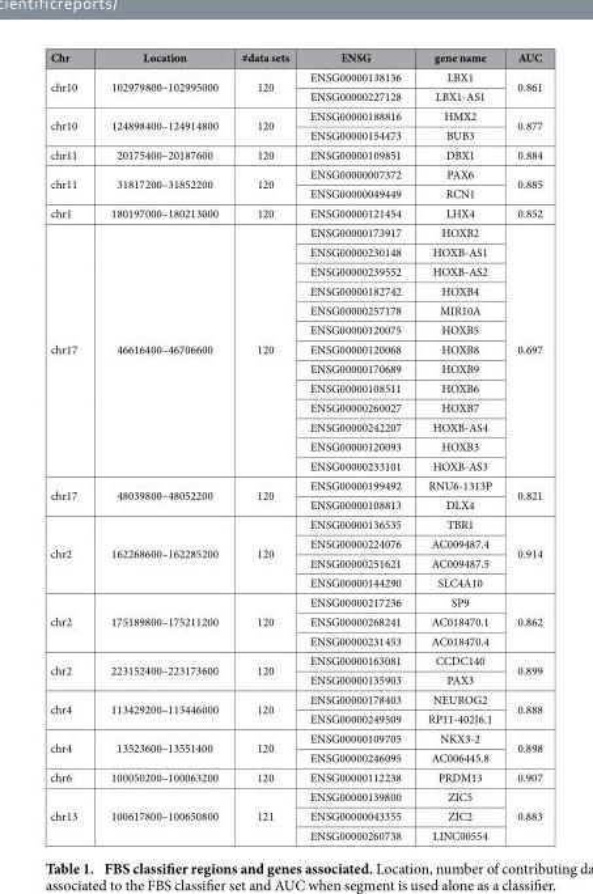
<table><thead><tr><td>Chr</td><td>Location</td><td>#data sets</td><td>ENSG</td><td>gene name</td><td>AUC</td></tr></thead><tbody><tr><td rowspan="2">chr10</td><td rowspan="2">102979800–102995000</td><td rowspan="2">120</td><td>ENSG00000138136</td><td>LBX1</td><td rowspan="2">0.861</td></tr><tr><td>ENSG00000227128</td><td>LBX1-AS1</td></tr><tr><td rowspan="2">chr10</td><td rowspan="2">124898400–124914800</td><td rowspan="2">120</td><td>ENSG00000188816</td><td>HMX2</td><td rowspan="2">0.877</td></tr><tr><td>ENSG00000154473</td><td>BUB3</td></tr><tr><td>chr11</td><td>20175400–20187600</td><td>120</td><td>ENSG00000109851</td><td>DBX1</td><td>0.884</td></tr><tr><td rowspan="2">chr11</td><td rowspan="2">31817200–31852200</td><td rowspan="2">120</td><td>ENSG00000007372</td><td>PAX6</td><td rowspan="2">0.885</td></tr><tr><td>ENSG00000049449</td><td>RCN1</td></tr><tr><td>chr1</td><td>180197000–180213000</td><td>120</td><td>ENSG00000121454</td><td>LHX4</td><td>0.852</td></tr><tr><td rowspan="13">chr17</td><td rowspan="13">46616400–46706600</td><td rowspan="13">120</td><td>ENSG00000173917</td><td>HOXB2</td><td rowspan="13">0.697</td></tr><tr><td>ENSG00000230148</td><td>HOXB-AS1</td></tr><tr><td>ENSG00000239552</td><td>HOXB-AS2</td></tr><tr><td>ENSG00000182742</td><td>HOXB4</td></tr><tr><td>ENSG00000257178</td><td>MIR10A</td></tr><tr><td>ENSG00000120075</td><td>HOXB5</td></tr><tr><td>ENSG00000120068</td><td>HOXB8</td></tr><tr><td>ENSG00000170689</td><td>HOXB9</td></tr><tr><td>ENSG00000108511</td><td>HOXB6</td></tr><tr><td>ENSG00000260027</td><td>HOXB7</td></tr><tr><td>ENSG00000242207</td><td>HOXB-AS4</td></tr><tr><td>ENSG00000120093</td><td>HOXB3</td></tr><tr><td>ENSG00000233101</td><td>HOXB-AS3</td></tr><tr><td rowspan="2">chr17</td><td rowspan="2">48039800–48052200</td><td rowspan="2">120</td><td>ENSG00000199492</td><td>RNU6-1313P</td><td rowspan="2">0.821</td></tr><tr><td>ENSG00000108813</td><td>DLX4</td></tr><tr><td rowspan="4">chr2</td><td rowspan="4">162268600–162285200</td><td rowspan="4">120</td><td>ENSG00000136535</td><td>TBR1</td><td rowspan="4">0.914</td></tr><tr><td>ENSG00000224076</td><td>AC009487.4</td></tr><tr><td>ENSG00000251621</td><td>AC009487.5</td></tr><tr><td>ENSG00000144290</td><td>SLC4A10</td></tr><tr><td rowspan="3">chr2</td><td rowspan="3">175189800–175211200</td><td rowspan="3">120</td><td>ENSG00000217236</td><td>SP9</td><td rowspan="3">0.862</td></tr><tr><td>ENSG00000268241</td><td>AC018470.1</td></tr><tr><td>ENSG00000231453</td><td>AC018470.4</td></tr><tr><td rowspan="2">chr2</td><td rowspan="2">223152400–223173600</td><td rowspan="2">120</td><td>ENSG00000163081</td><td>CCDC140</td><td rowspan="2">0.899</td></tr><tr><td>ENSG00000135903</td><td>PAX3</td></tr><tr><td rowspan="2">chr4</td><td rowspan="2">113429200–113446000</td><td rowspan="2">120</td><td>ENSG00000178403</td><td>NEUROG2</td><td rowspan="2">0.888</td></tr><tr><td>ENSG00000249509</td><td>RP11-402J6.1</td></tr><tr><td rowspan="2">chr4</td><td rowspan="2">13523600–13551400</td><td rowspan="2">120</td><td>ENSG00000109705</td><td>NKX3-2</td><td rowspan="2">0.898</td></tr><tr><td>ENSG00000246095</td><td>AC006445.8</td></tr><tr><td>chr6</td><td>100050200–100063200</td><td>120</td><td>ENSG00000112238</td><td>PRDM13</td><td>0.907</td></tr><tr><td rowspan="3">chr13</td><td rowspan="3">100617800–100650800</td><td rowspan="3">121</td><td>ENSG00000139800</td><td>ZIC5</td><td rowspan="3">0.883</td></tr><tr><td>ENSG00000043355</td><td>ZIC2</td></tr><tr><td>ENSG00000260738</td><td>LINC00554</td></tr></tbody></table>